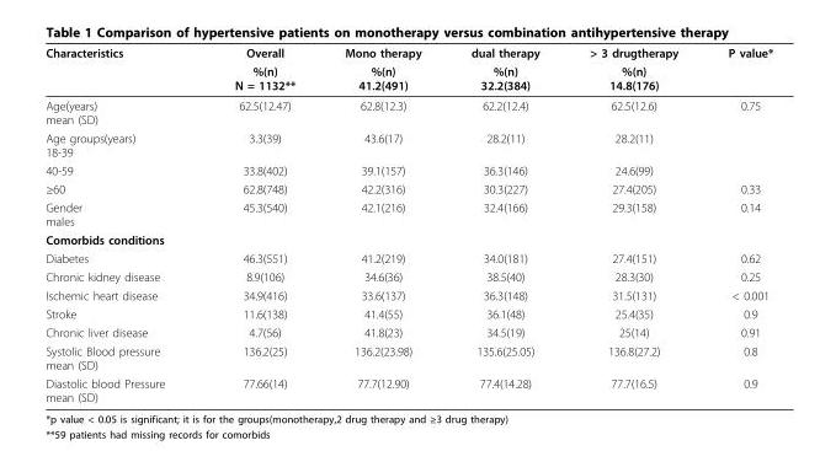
<table><thead><tr><td rowspan="2">Characteristics</td><td rowspan="2">Overall %(n) N = 1132**</td><td rowspan="2">Mono therapy %(n) 41.2(491)</td><td rowspan="2">dual therapy %(n) 32.2(384)</td><td rowspan="2">&gt; 3 drugtherapy %(n) 14.8(176)</td><td rowspan="2">P value*</td></tr><tr></tr></thead><tbody><tr><td>Age(years) mean (SD)</td><td>62.5(12.47)</td><td>62.8(12.3)</td><td>62.2(12.4)</td><td>62.5(12.6)</td><td>0.75</td></tr><tr><td>Age groups(years) 18-39</td><td>3.3(39)</td><td>43.6(17)</td><td>28.2(11)</td><td>28.2(11)</td><td></td></tr><tr><td>40-59</td><td>33.8(402)</td><td>39.1(157)</td><td>36.3(146)</td><td>24.6(99)</td><td></td></tr><tr><td>≥60</td><td>62.8(748)</td><td>42.2(316)</td><td>30.3(227)</td><td>27.4(205)</td><td>0.33</td></tr><tr><td>Gender males</td><td>45.3(540)</td><td>42.1(216)</td><td>32.4(166)</td><td>29.3(158)</td><td>0.14</td></tr><tr><td colspan="6">Comorbids conditions</td></tr><tr><td>Diabetes</td><td>46.3(551)</td><td>41.2(219)</td><td>34.0(181)</td><td>27.4(151)</td><td>0.62</td></tr><tr><td>Chronic kidney disease</td><td>8.9(106)</td><td>34.6(36)</td><td>38.5(40)</td><td>28.3(30)</td><td>0.25</td></tr><tr><td>Ischemic heart disease</td><td>34.9(416)</td><td>33.6(137)</td><td>36.3(148)</td><td>31.5(131)</td><td>&lt; 0.001</td></tr><tr><td>Stroke</td><td>11.6(138)</td><td>41.4(55)</td><td>36.1(48)</td><td>25.4(35)</td><td>0.9</td></tr><tr><td>Chronic liver disease</td><td>4.7(56)</td><td>41.8(23)</td><td>34.5(19)</td><td>25(14)</td><td>0.91</td></tr><tr><td>Systolic Blood pressure mean (SD)</td><td>136.2(25)</td><td>136.2(23.98)</td><td>135.6(25.05)</td><td>136.8(27.2)</td><td>0.8</td></tr><tr><td>Diastolic blood Pressure mean (SD)</td><td>77.66(14)</td><td>77.7(12.90)</td><td>77.4(14.28)</td><td>77.7(16.5)</td><td>0.9</td></tr></tbody></table>